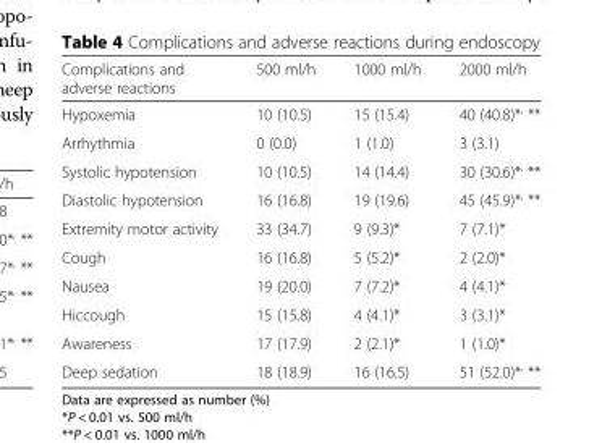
<table><thead><tr><td>Complications and adverse reactions</td><td>500 ml/h</td><td>1000 ml/h</td><td>2000 ml/h</td></tr></thead><tbody><tr><td>Hypoxemia</td><td>10 (10.5)</td><td>15 (15.4)</td><td>40 (40.8)*<sup>,</sup> **</td></tr><tr><td>Arrhythmia</td><td>0 (0.0)</td><td>1 (1.0)</td><td>3 (3.1)</td></tr><tr><td>Systolic hypotension</td><td>10 (10.5)</td><td>14 (14.4)</td><td>30 (30.6)*<sup>,</sup> **</td></tr><tr><td>Diastolic hypotension</td><td>16 (16.8)</td><td>19 (19.6)</td><td>45 (45.9)*<sup>,</sup> **</td></tr><tr><td>Extremity motor activity</td><td>33 (34.7)</td><td>9 (9.3)*</td><td>7 (7.1)*</td></tr><tr><td>Cough</td><td>16 (16.8)</td><td>5 (5.2)*</td><td>2 (2.0)*</td></tr><tr><td>Nausea</td><td>19 (20.0)</td><td>7 (7.2)*</td><td>4 (4.1)*</td></tr><tr><td>Hiccough</td><td>15 (15.8)</td><td>4 (4.1)*</td><td>3 (3.1)*</td></tr><tr><td>Awareness</td><td>17 (17.9)</td><td>2 (2.1)*</td><td>1 (1.0)*</td></tr><tr><td>Deep sedation</td><td>18 (18.9)</td><td>16 (16.5)</td><td>51 (52.0)*<sup>,</sup> **</td></tr></tbody></table>